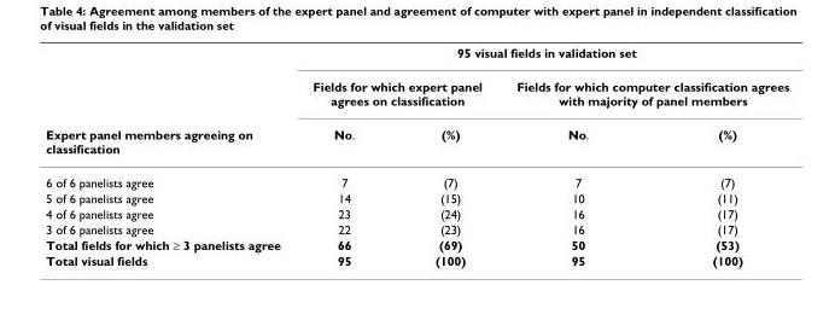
<table><thead><tr><td rowspan="3">Expert panel members agreeing on classification</td><td colspan="4">95 visual fields in validation set</td></tr><tr><td colspan="2">Fields for which expert panel agrees on classification</td><td colspan="2">Fields for which computer classification agrees with majority of panel members</td></tr><tr><td>No.</td><td>(%)</td><td>No.</td><td>(%)</td></tr></thead><tbody><tr><td>6 of 6 panelists agree</td><td>7</td><td>(7)</td><td>7</td><td>(7)</td></tr><tr><td>5 of 6 panelists agree</td><td>14</td><td>(15)</td><td>10</td><td>(11)</td></tr><tr><td>4 of 6 panelists agree</td><td>23</td><td>(24)</td><td>16</td><td>(17)</td></tr><tr><td>3 of 6 panelists agree</td><td>22</td><td>(23)</td><td>16</td><td>(17)</td></tr><tr><td>Total fields for which ≥ 3 panelists agree</td><td>66</td><td>(69)</td><td>50</td><td>(53)</td></tr><tr><td>Total visual fields</td><td>95</td><td>(100)</td><td>95</td><td>(100)</td></tr></tbody></table>